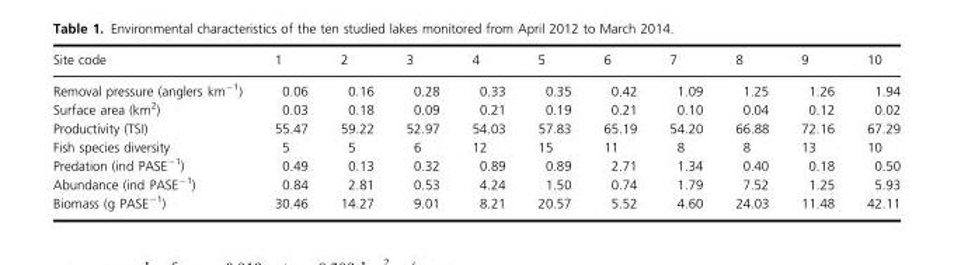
<table><thead><tr><td>Site code</td><td>1</td><td>2</td><td>3</td><td>4</td><td>5</td><td>6</td><td>7</td><td>8</td><td>9</td><td>10</td></tr></thead><tbody><tr><td>Removal pressure (anglers km<sup>−1</sup>)</td><td>0.06</td><td>0.16</td><td>0.28</td><td>0.33</td><td>0.35</td><td>0.42</td><td>1.09</td><td>1.25</td><td>1.26</td><td>1.94</td></tr><tr><td>Surface area (km<sup>2</sup>)</td><td>0.03</td><td>0.18</td><td>0.09</td><td>0.21</td><td>0.19</td><td>0.21</td><td>0.10</td><td>0.04</td><td>0.12</td><td>0.02</td></tr><tr><td>Productivity (TSI)</td><td>55.47</td><td>59.22</td><td>52.97</td><td>54.03</td><td>57.83</td><td>65.19</td><td>54.20</td><td>66.88</td><td>72.16</td><td>67.29</td></tr><tr><td>Fish species diversity</td><td>5</td><td>5</td><td>6</td><td>12</td><td>15</td><td>11</td><td>8</td><td>8</td><td>13</td><td>10</td></tr><tr><td>Predation (ind PASE<sup>−1</sup>)</td><td>0.49</td><td>0.13</td><td>0.32</td><td>0.89</td><td>0.89</td><td>2.71</td><td>1.34</td><td>0.40</td><td>0.18</td><td>0.50</td></tr><tr><td>Abundance (ind PASE<sup>−1</sup>)</td><td>0.84</td><td>2.81</td><td>0.53</td><td>4.24</td><td>1.50</td><td>0.74</td><td>1.79</td><td>7.52</td><td>1.25</td><td>5.93</td></tr><tr><td>Biomass (g PASE<sup>−1</sup>)</td><td>30.46</td><td>14.27</td><td>9.01</td><td>8.21</td><td>20.57</td><td>5.52</td><td>4.60</td><td>24.03</td><td>11.48</td><td>42.11</td></tr></tbody></table>